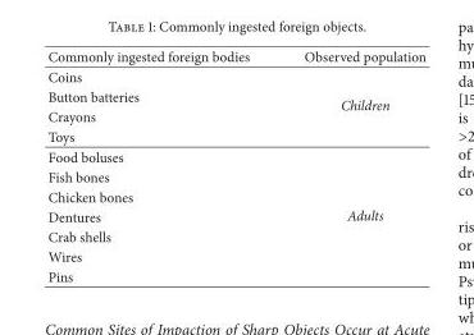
<table><thead><tr><td>Commonly ingested foreign bodies</td><td>Observed population</td></tr></thead><tbody><tr><td>Coins</td><td rowspan="4">Children</td></tr><tr><td>Button batteries</td></tr><tr><td>Crayons</td></tr><tr><td>Toys</td></tr><tr><td>Food boluses</td><td rowspan="7">Adults</td></tr><tr><td>Fish bones</td></tr><tr><td>Chicken bones</td></tr><tr><td>Dentures</td></tr><tr><td>Crab shells</td></tr><tr><td>Wires</td></tr><tr><td>Pins</td></tr></tbody></table>